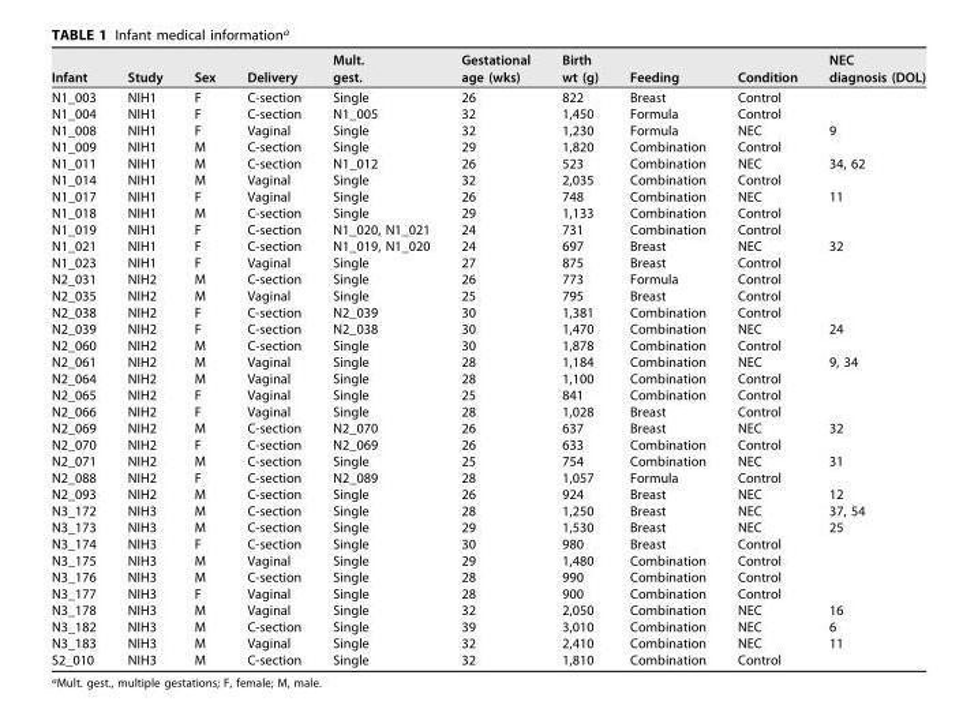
<table><thead><tr><td>Infant</td><td>Study</td><td>Sex</td><td>Delivery</td><td>Mult. gest.</td><td>Gestational age (wks)</td><td>Birth wt (g)</td><td>Feeding</td><td>Condition</td><td>NEC diagnosis (DOL)</td></tr></thead><tbody><tr><td>N1_003</td><td>NIH1</td><td>F</td><td>C-section</td><td>Single</td><td>26</td><td>822</td><td>Breast</td><td>Control</td><td></td></tr><tr><td>N1_004</td><td>NIH1</td><td>F</td><td>C-section</td><td>N1_005</td><td>32</td><td>1,450</td><td>Formula</td><td>Control</td><td></td></tr><tr><td>N1_008</td><td>NIH1</td><td>F</td><td>Vaginal</td><td>Single</td><td>32</td><td>1,230</td><td>Formula</td><td>NEC</td><td>9</td></tr><tr><td>N1_009</td><td>NIH1</td><td>M</td><td>C-section</td><td>Single</td><td>29</td><td>1,820</td><td>Combination</td><td>Control</td><td></td></tr><tr><td>N1_011</td><td>NIH1</td><td>M</td><td>C-section</td><td>N1_012</td><td>26</td><td>523</td><td>Combination</td><td>NEC</td><td>34, 62</td></tr><tr><td>N1_014</td><td>NIH1</td><td>M</td><td>Vaginal</td><td>Single</td><td>32</td><td>2,035</td><td>Combination</td><td>Control</td><td></td></tr><tr><td>N1_017</td><td>NIH1</td><td>F</td><td>Vaginal</td><td>Single</td><td>26</td><td>748</td><td>Combination</td><td>NEC</td><td>11</td></tr><tr><td>N1_018</td><td>NIH1</td><td>M</td><td>C-section</td><td>Single</td><td>29</td><td>1,133</td><td>Combination</td><td>Control</td><td></td></tr><tr><td>N1_019</td><td>NIH1</td><td>F</td><td>C-section</td><td>N1_020, N1_021</td><td>24</td><td>731</td><td>Combination</td><td>Control</td><td></td></tr><tr><td>N1_021</td><td>NIH1</td><td>F</td><td>C-section</td><td>N1_019, N1_020</td><td>24</td><td>697</td><td>Breast</td><td>NEC</td><td>32</td></tr><tr><td>N1_023</td><td>NIH1</td><td>F</td><td>Vaginal</td><td>Single</td><td>27</td><td>875</td><td>Breast</td><td>Control</td><td></td></tr><tr><td>N2_031</td><td>NIH2</td><td>M</td><td>C-section</td><td>Single</td><td>26</td><td>773</td><td>Formula</td><td>Control</td><td></td></tr><tr><td>N2_035</td><td>NIH2</td><td>M</td><td>Vaginal</td><td>Single</td><td>25</td><td>795</td><td>Breast</td><td>Control</td><td></td></tr><tr><td>N2_038</td><td>NIH2</td><td>F</td><td>C-section</td><td>N2_039</td><td>30</td><td>1,381</td><td>Combination</td><td>Control</td><td></td></tr><tr><td>N2_039</td><td>NIH2</td><td>F</td><td>C-section</td><td>N2_038</td><td>30</td><td>1,470</td><td>Combination</td><td>NEC</td><td>24</td></tr><tr><td>N2_060</td><td>NIH2</td><td>M</td><td>C-section</td><td>Single</td><td>30</td><td>1,878</td><td>Combination</td><td>Control</td><td></td></tr><tr><td>N2_061</td><td>NIH2</td><td>M</td><td>Vaginal</td><td>Single</td><td>28</td><td>1,184</td><td>Combination</td><td>NEC</td><td>9, 34</td></tr><tr><td>N2_064</td><td>NIH2</td><td>M</td><td>Vaginal</td><td>Single</td><td>28</td><td>1,100</td><td>Combination</td><td>Control</td><td></td></tr><tr><td>N2_065</td><td>NIH2</td><td>F</td><td>Vaginal</td><td>Single</td><td>25</td><td>841</td><td>Combination</td><td>Control</td><td></td></tr><tr><td>N2_066</td><td>NIH2</td><td>F</td><td>Vaginal</td><td>Single</td><td>28</td><td>1,028</td><td>Breast</td><td>Control</td><td></td></tr><tr><td>N2_069</td><td>NIH2</td><td>M</td><td>C-section</td><td>N2_070</td><td>26</td><td>637</td><td>Breast</td><td>NEC</td><td>32</td></tr><tr><td>N2_070</td><td>NIH2</td><td>F</td><td>C-section</td><td>N2_069</td><td>26</td><td>633</td><td>Combination</td><td>Control</td><td></td></tr><tr><td>N2_071</td><td>NIH2</td><td>M</td><td>C-section</td><td>Single</td><td>25</td><td>754</td><td>Combination</td><td>NEC</td><td>31</td></tr><tr><td>N2_088</td><td>NIH2</td><td>F</td><td>C-section</td><td>N2_089</td><td>28</td><td>1,057</td><td>Formula</td><td>Control</td><td></td></tr><tr><td>N2_093</td><td>NIH2</td><td>M</td><td>C-section</td><td>Single</td><td>26</td><td>924</td><td>Breast</td><td>NEC</td><td>12</td></tr><tr><td>N3_172</td><td>NIH3</td><td>M</td><td>C-section</td><td>Single</td><td>28</td><td>1,250</td><td>Breast</td><td>NEC</td><td>37, 54</td></tr><tr><td>N3_173</td><td>NIH3</td><td>M</td><td>C-section</td><td>Single</td><td>29</td><td>1,530</td><td>Breast</td><td>NEC</td><td>25</td></tr><tr><td>N3_174</td><td>NIH3</td><td>F</td><td>C-section</td><td>Single</td><td>30</td><td>980</td><td>Breast</td><td>Control</td><td></td></tr><tr><td>N3_175</td><td>NIH3</td><td>M</td><td>Vaginal</td><td>Single</td><td>29</td><td>1,480</td><td>Combination</td><td>Control</td><td></td></tr><tr><td>N3_176</td><td>NIH3</td><td>M</td><td>C-section</td><td>Single</td><td>28</td><td>990</td><td>Combination</td><td>Control</td><td></td></tr><tr><td>N3_177</td><td>NIH3</td><td>F</td><td>Vaginal</td><td>Single</td><td>28</td><td>900</td><td>Combination</td><td>Control</td><td></td></tr><tr><td>N3_178</td><td>NIH3</td><td>M</td><td>Vaginal</td><td>Single</td><td>32</td><td>2,050</td><td>Combination</td><td>NEC</td><td>16</td></tr><tr><td>N3_182</td><td>NIH3</td><td>M</td><td>C-section</td><td>Single</td><td>39</td><td>3,010</td><td>Combination</td><td>NEC</td><td>6</td></tr><tr><td>N3_183</td><td>NIH3</td><td>M</td><td>Vaginal</td><td>Single</td><td>32</td><td>2,410</td><td>Combination</td><td>NEC</td><td>11</td></tr><tr><td>S2_010</td><td>NIH3</td><td>M</td><td>C-section</td><td>Single</td><td>32</td><td>1,810</td><td>Combination</td><td>Control</td><td></td></tr></tbody></table>